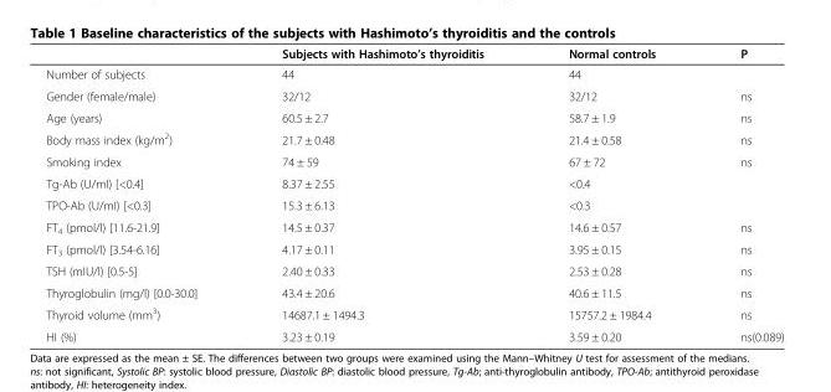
<table><thead><tr><td></td><td>Subjects with Hashimoto’s thyroiditis</td><td>Normal controls</td><td>P</td></tr></thead><tbody><tr><td>Number of subjects</td><td>44</td><td>44</td><td></td></tr><tr><td>Gender (female/male)</td><td>32/12</td><td>32/12</td><td>ns</td></tr><tr><td>Age (years)</td><td>60.5 ± 2.7</td><td>58.7 ± 1.9</td><td>ns</td></tr><tr><td>Body mass index (kg/m<sup>2</sup>)</td><td>21.7 ± 0.48</td><td>21.4 ± 0.58</td><td>ns</td></tr><tr><td>Smoking index</td><td>74 ± 59</td><td>67 ± 72</td><td>ns</td></tr><tr><td>Tg-Ab (U/mI) [&lt;0.4]</td><td>8.37 ± 2.55</td><td>&lt;0.4</td><td rowspan="2"></td></tr><tr><td>TPO-Ab (U/mI) [&lt;0.3]</td><td>15.3 ± 6.13</td><td>&lt;0.3</td></tr><tr><td>FT<sub>4</sub> (pmol/l) [11.6-21.9]</td><td>14.5 ± 0.37</td><td>14.6 ± 0.57</td><td>ns</td></tr><tr><td>FT<sub>3</sub> (pmol/l) [3.54-6.16]</td><td>4.17 ± 0.11</td><td>3.95 ± 0.15</td><td>ns</td></tr><tr><td>TSH (mIU/l) [0.5-5]</td><td>2.40 ± 0.33</td><td>2.53 ± 0.28</td><td>ns</td></tr><tr><td>Thyroglobulin (mg/l) [0.0-30.0]</td><td>43.4 ± 20.6</td><td>40.6 ± 11.5</td><td>ns</td></tr><tr><td>Thyroid volume (mm<sup>3</sup>)</td><td>14687.1 ± 1494.3</td><td>15757.2 ± 1984.4</td><td>ns</td></tr><tr><td>HI (%)</td><td>3.23 ± 0.19</td><td>3.59 ± 0.20</td><td>ns(0.089)</td></tr></tbody></table>